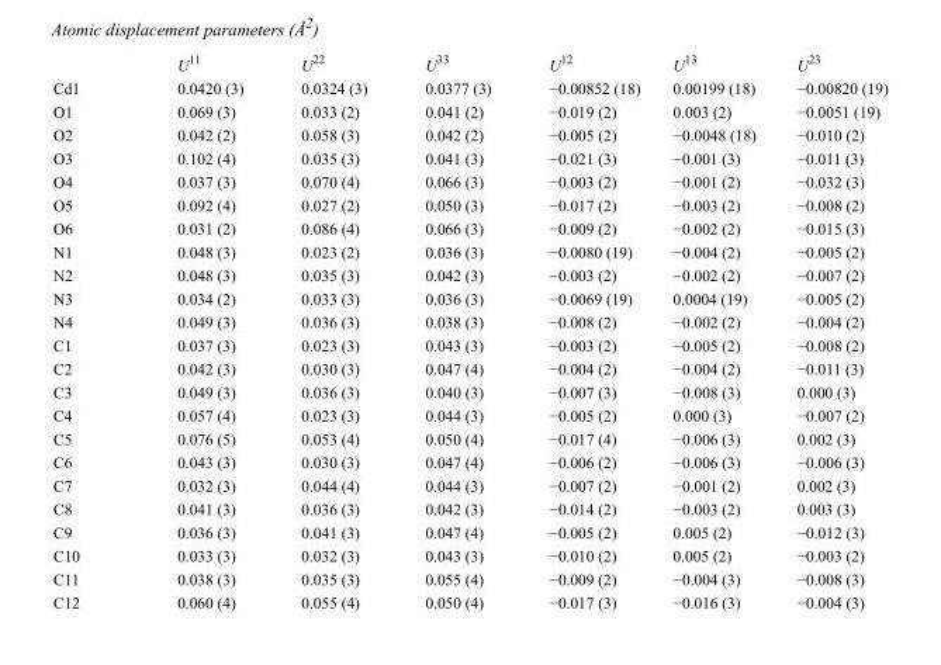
<table><thead><tr><td></td><td>U<sup>11</sup></td><td>U<sup>22</sup></td><td>U<sup>33</sup></td><td>U<sup>12</sup></td><td>U<sup>13</sup></td><td>U<sup>23</sup></td></tr></thead><tbody><tr><td>Cd1</td><td>0.0420 (3)</td><td>0.0324 (3)</td><td>0.0377 (3)</td><td>−0.00852 (18)</td><td>0.00199 (18)</td><td>−0.00820 (19)</td></tr><tr><td>O1</td><td>0.069 (3)</td><td>0.033 (2)</td><td>0.041 (2)</td><td>−0.019 (2)</td><td>0.003 (2)</td><td>−0.0051 (19)</td></tr><tr><td>O2</td><td>0.042 (2)</td><td>0.058 (3)</td><td>0.042 (2)</td><td>−0.005 (2)</td><td>−0.0048 (18)</td><td>−0.010 (2)</td></tr><tr><td>O3</td><td>0.102 (4)</td><td>0.035 (3)</td><td>0.041 (3)</td><td>−0.021 (3)</td><td>−0.001 (3)</td><td>−0.011 (3)</td></tr><tr><td>O4</td><td>0.037 (3)</td><td>0.070 (4)</td><td>0.066 (3)</td><td>−0.003 (2)</td><td>−0.001 (2)</td><td>−0.032 (3)</td></tr><tr><td>O5</td><td>0.092 (4)</td><td>0.027 (2)</td><td>0.050 (3)</td><td>−0.017 (2)</td><td>−0.003 (2)</td><td>−0.008 (2)</td></tr><tr><td>O6</td><td>0.031 (2)</td><td>0.086 (4)</td><td>0.066 (3)</td><td>−0.009 (2)</td><td>−0.002 (2)</td><td>−0.015 (3)</td></tr><tr><td>N1</td><td>0.048 (3)</td><td>0.023 (2)</td><td>0.036 (3)</td><td>−0.0080 (19)</td><td>−0.004 (2)</td><td>−0.005 (2)</td></tr><tr><td>N2</td><td>0.048 (3)</td><td>0.035 (3)</td><td>0.042 (3)</td><td>−0.003 (2)</td><td>−0.002 (2)</td><td>−0.007 (2)</td></tr><tr><td>N3</td><td>0.034 (2)</td><td>0.033 (3)</td><td>0.036 (3)</td><td>−0.0069 (19)</td><td>0.0004 (19)</td><td>−0.005 (2)</td></tr><tr><td>N4</td><td>0.049 (3)</td><td>0.036 (3)</td><td>0.038 (3)</td><td>−0.008 (2)</td><td>−0.002 (2)</td><td>−0.004 (2)</td></tr><tr><td>C1</td><td>0.037 (3)</td><td>0.023 (3)</td><td>0.043 (3)</td><td>−0.003 (2)</td><td>−0.005 (2)</td><td>−0.008 (2)</td></tr><tr><td>C2</td><td>0.042 (3)</td><td>0.030 (3)</td><td>0.047 (4)</td><td>−0.004 (2)</td><td>−0.004 (2)</td><td>−0.011 (3)</td></tr><tr><td>C3</td><td>0.049 (3)</td><td>0.036 (3)</td><td>0.040 (3)</td><td>−0.007 (3)</td><td>−0.008 (3)</td><td>0.000 (3)</td></tr><tr><td>C4</td><td>0.057 (4)</td><td>0.023 (3)</td><td>0.044 (3)</td><td>−0.005 (2)</td><td>0.000 (3)</td><td>−0.007 (2)</td></tr><tr><td>C5</td><td>0.076 (5)</td><td>0.053 (4)</td><td>0.050 (4)</td><td>−0.017 (4)</td><td>−0.006 (3)</td><td>0.002 (3)</td></tr><tr><td>C6</td><td>0.043 (3)</td><td>0.030 (3)</td><td>0.047 (4)</td><td>−0.006 (2)</td><td>−0.006 (3)</td><td>−0.006 (3)</td></tr><tr><td>C7</td><td>0.032 (3)</td><td>0.044 (4)</td><td>0.044 (3)</td><td>−0.007 (2)</td><td>−0.001 (2)</td><td>0.002 (3)</td></tr><tr><td>C8</td><td>0.041 (3)</td><td>0.036 (3)</td><td>0.042 (3)</td><td>−0.014 (2)</td><td>−0.003 (2)</td><td>0.003 (3)</td></tr><tr><td>C9</td><td>0.036 (3)</td><td>0.041 (3)</td><td>0.047 (4)</td><td>−0.005 (2)</td><td>0.005 (2)</td><td>−0.012 (3)</td></tr><tr><td>C10</td><td>0.033 (3)</td><td>0.032 (3)</td><td>0.043 (3)</td><td>−0.010 (2)</td><td>0.005 (2)</td><td>−0.003 (2)</td></tr><tr><td>C11</td><td>0.038 (3)</td><td>0.035 (3)</td><td>0.055 (4)</td><td>−0.009 (2)</td><td>−0.004 (3)</td><td>−0.008 (3)</td></tr><tr><td>C12</td><td>0.060 (4)</td><td>0.055 (4)</td><td>0.050 (4)</td><td>−0.017 (3)</td><td>−0.016 (3)</td><td>−0.004 (3)</td></tr></tbody></table>